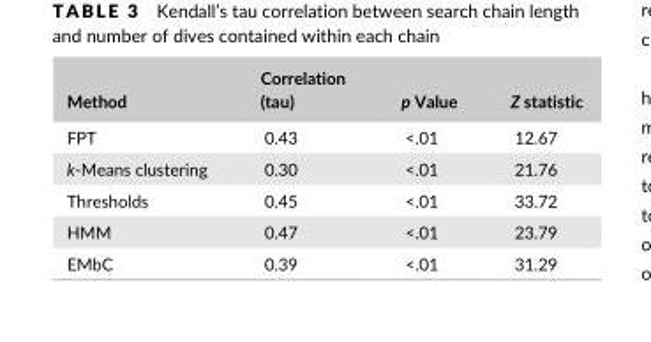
<table><thead><tr><td>Method</td><td>Correlation (tau)</td><td>p Value</td><td>Z statistic</td></tr></thead><tbody><tr><td>FPT</td><td>0.43</td><td>&lt;.01</td><td>12.67</td></tr><tr><td>k- Means clustering</td><td>0.30</td><td>&lt;.01</td><td>21.76</td></tr><tr><td>Thresholds</td><td>0.45</td><td>&lt;.01</td><td>33.72</td></tr><tr><td>HMM</td><td>0.47</td><td>&lt;.01</td><td>23.79</td></tr><tr><td>EMbC</td><td>0.39</td><td>&lt;.01</td><td>31.29</td></tr></tbody></table>